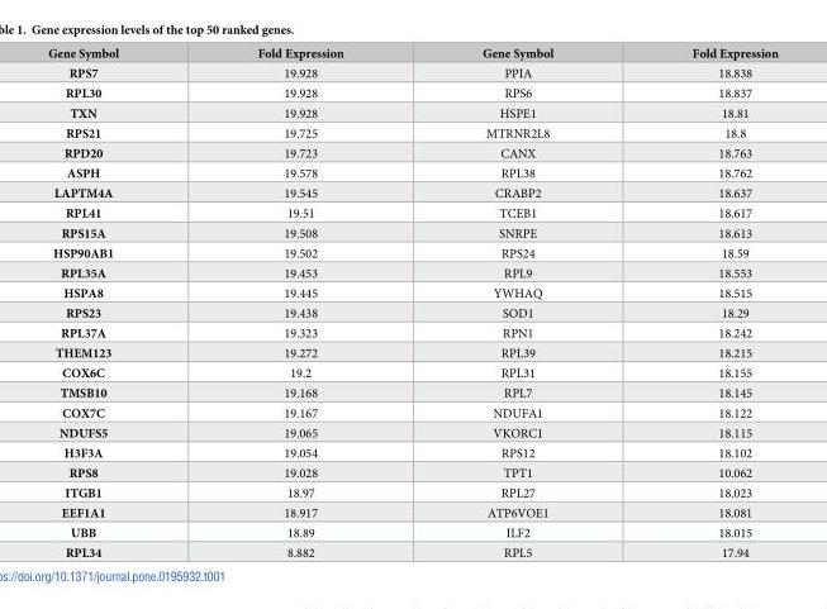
<table><thead><tr><td>Gene Symbol</td><td>Fold Expression</td><td>Gene Symbol</td><td>Fold Expression</td></tr></thead><tbody><tr><td>RPS7</td><td>19.928</td><td>PPIA</td><td>18.838</td></tr><tr><td>RPL30</td><td>19.928</td><td>RPS6</td><td>18.837</td></tr><tr><td>TXN</td><td>19.928</td><td>HSPE1</td><td>18.81</td></tr><tr><td>RPS21</td><td>19.725</td><td>MTRNR2L8</td><td>18.8</td></tr><tr><td>RPD20</td><td>19.723</td><td>CANX</td><td>18.763</td></tr><tr><td>ASPH</td><td>19.578</td><td>RPL38</td><td>18.762</td></tr><tr><td>LAPTM4A</td><td>19.545</td><td>CRABP2</td><td>18.637</td></tr><tr><td>RPL41</td><td>19.51</td><td>TCEB1</td><td>18.617</td></tr><tr><td>RPS15A</td><td>19.508</td><td>SNRPE</td><td>18.613</td></tr><tr><td>HSP90AB1</td><td>19.502</td><td>RPS24</td><td>18.59</td></tr><tr><td>RPL35A</td><td>19.453</td><td>RPL9</td><td>18.553</td></tr><tr><td>HSPA8</td><td>19.445</td><td>YWHAQ</td><td>18.515</td></tr><tr><td>RPS23</td><td>19.438</td><td>SOD1</td><td>18.29</td></tr><tr><td>RPL37A</td><td>19.323</td><td>RPN1</td><td>18.242</td></tr><tr><td>THEM123</td><td>19.272</td><td>RPL39</td><td>18.215</td></tr><tr><td>COX6C</td><td>19.2</td><td>RPL31</td><td>18.155</td></tr><tr><td>TMSB10</td><td>19.168</td><td>RPL7</td><td>18.145</td></tr><tr><td>COX7C</td><td>19.167</td><td>NDUFA1</td><td>18.122</td></tr><tr><td>NDUFS5</td><td>19.065</td><td>VKORC1</td><td>18.115</td></tr><tr><td>H3F3A</td><td>19.054</td><td>RPS12</td><td>18.102</td></tr><tr><td>RPS8</td><td>19.028</td><td>TPT1</td><td>10.062</td></tr><tr><td>ITGB1</td><td>18.97</td><td>RPL27</td><td>18.023</td></tr><tr><td>EEF1A1</td><td>18.917</td><td>ATP6VOE1</td><td>18.081</td></tr><tr><td>UBB</td><td>18.89</td><td>ILF2</td><td>18.015</td></tr><tr><td>RPL34</td><td>8.882</td><td>RPL5</td><td>17.94</td></tr></tbody></table>